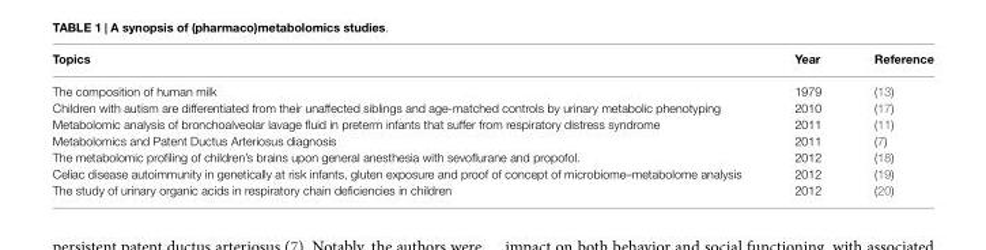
<table><thead><tr><td>Topics</td><td>Year</td><td>Reference</td></tr></thead><tbody><tr><td>The composition of human milk</td><td>1979</td><td>(13)</td></tr><tr><td>Children with autism are differentiated from their unaffected siblings and age-matched controls by urinary metabolic phenotyping</td><td>2010</td><td>(17)</td></tr><tr><td>Metabolomic analysis of bronchoalveolar lavage fluid in preterm infants that suffer from respiratory distress syndrome</td><td>2011</td><td>(11)</td></tr><tr><td>Metabolomics and Patent Ductus Arteriosus diagnosis</td><td>2011</td><td>(7)</td></tr><tr><td>The metabolomic profiling of children’s brains upon general anesthesia with sevoflurane and propofol.</td><td>2012</td><td>(18)</td></tr><tr><td>Celiac disease autoimmunity in genetically at risk infants, gluten exposure and proof of concept of microbiome–metabolome analysis</td><td>2012</td><td>(19)</td></tr><tr><td>The study of urinary organic acids in respiratory chain deficiencies in children</td><td>2012</td><td>(20)</td></tr></tbody></table>